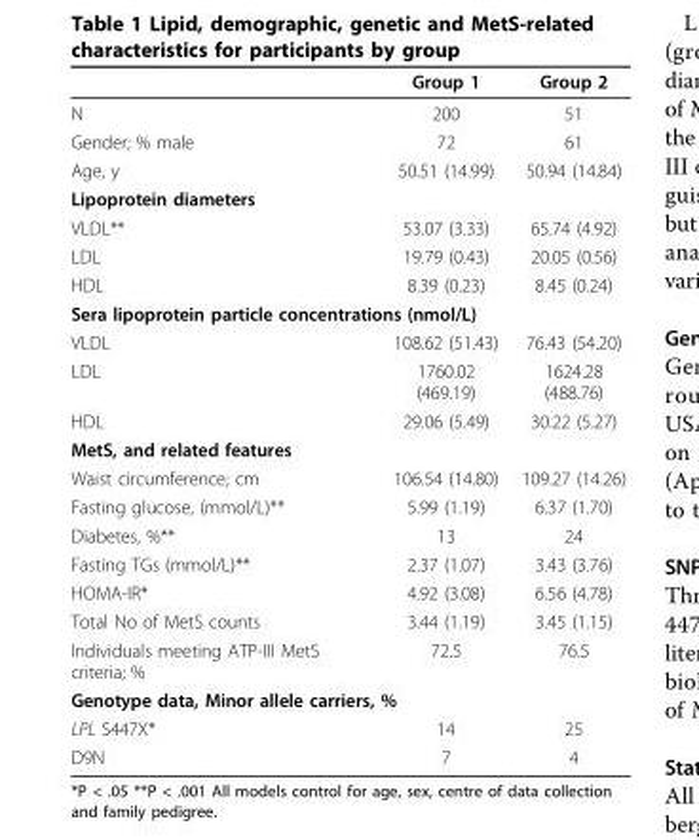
<table><thead><tr><td></td><td>Group 1</td><td>Group 2</td></tr></thead><tbody><tr><td>N</td><td>200</td><td>51</td></tr><tr><td>Gender; % male</td><td>72</td><td>61</td></tr><tr><td>Age, y</td><td>50.51 (14.99)</td><td>50.94 (14.84)</td></tr><tr><td colspan="3">Lipoprotein diameters</td></tr><tr><td>VLDL**</td><td>53.07 (3.33)</td><td>65.74 (4.92)</td></tr><tr><td>LDL</td><td>19.79 (0.43)</td><td>20.05 (0.56)</td></tr><tr><td>HDL</td><td>8.39 (0.23)</td><td>8.45 (0.24)</td></tr><tr><td colspan="3">Sera lipoprotein particle concentrations (nmol/L)</td></tr><tr><td>VLDL</td><td>108.62 (51.43)</td><td>76.43 (54.20)</td></tr><tr><td>LDL</td><td>1760.02 (469.19)</td><td>1624.28 (488.76)</td></tr><tr><td>HDL</td><td>29.06 (5.49)</td><td>30.22 (5.27)</td></tr><tr><td colspan="3">MetS, and related features</td></tr><tr><td>Waist circumference; cm</td><td>106.54 (14.80)</td><td>109.27 (14.26)</td></tr><tr><td>Fasting glucose, (mmol/L)**</td><td>5.99 (1.19)</td><td>6.37 (1.70)</td></tr><tr><td>Diabetes, %**</td><td>13</td><td>24</td></tr><tr><td>Fasting TGs (mmol/L)**</td><td>2.37 (1.07)</td><td>3.43 (3.76)</td></tr><tr><td>HOMA-IR*</td><td>4.92 (3.08)</td><td>6.56 (4.78)</td></tr><tr><td>Total No of MetS counts</td><td>3.44 (1.19)</td><td>3.45 (1.15)</td></tr><tr><td>Individuals meeting ATP-III MetS criteria; %</td><td>72.5</td><td>76.5</td></tr><tr><td colspan="3">Genotype data, Minor allele carriers, %</td></tr><tr><td>LPL S447X*</td><td>14</td><td>25</td></tr><tr><td>D9N</td><td>7</td><td>4</td></tr></tbody></table>